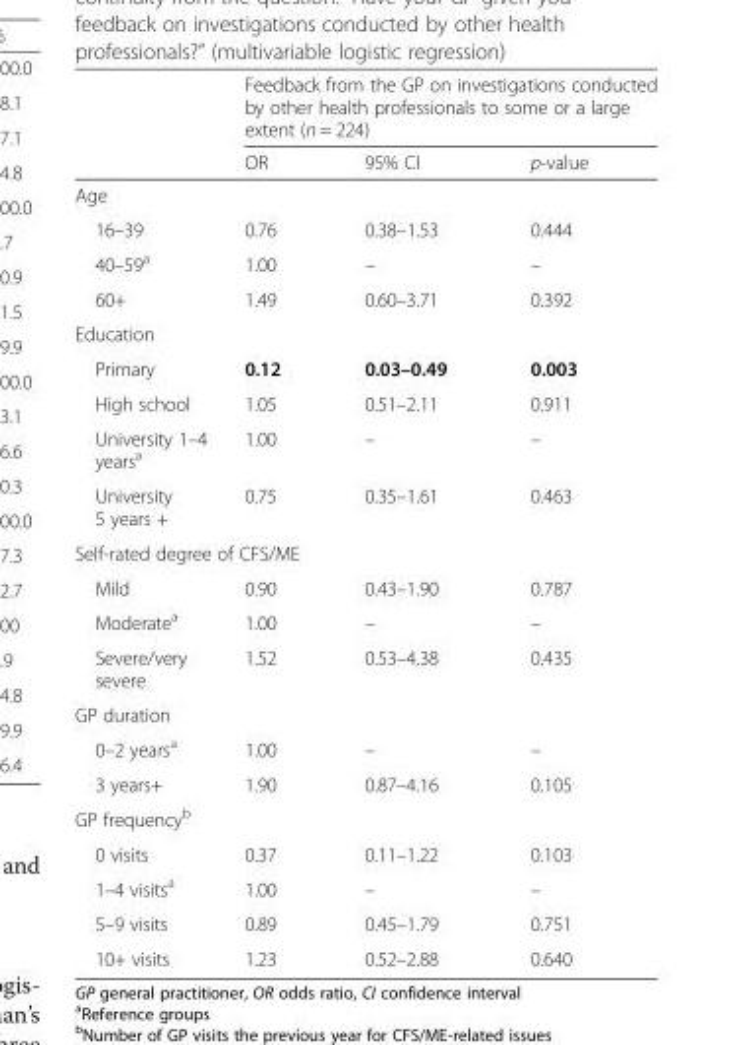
<table><thead><tr><td rowspan="2"></td><td colspan="3">Feedback from the GP on investigations conducted by other health professionals to some or a large extent (n = 224)</td></tr><tr><td>OR</td><td>95% CI</td><td>p-value</td></tr></thead><tbody><tr><td colspan="4">Age</td></tr><tr><td>16–39</td><td>0.76</td><td>0.38–1.53</td><td>0.444</td></tr><tr><td>40–59<sup>a</sup></td><td>1.00</td><td>–</td><td>–</td></tr><tr><td>60+</td><td>1.49</td><td>0.60–3.71</td><td>0.392</td></tr><tr><td colspan="4">Education</td></tr><tr><td>Primary</td><td>0.12</td><td>0.03–0.49</td><td>0.003</td></tr><tr><td>High school</td><td>1.05</td><td>0.51–2.11</td><td>0.911</td></tr><tr><td>University 1–4 years<sup>a</sup></td><td>1.00</td><td>–</td><td>–</td></tr><tr><td>University 5 years +</td><td>0.75</td><td>0.35–1.61</td><td>0.463</td></tr><tr><td colspan="4">Self-rated degree of CFS/ME</td></tr><tr><td>Mild</td><td>0.90</td><td>0.43–1.90</td><td>0.787</td></tr><tr><td>Moderate<sup>a</sup></td><td>1.00</td><td>–</td><td>–</td></tr><tr><td>Severe/very severe</td><td>1.52</td><td>0.53–4.38</td><td>0.435</td></tr><tr><td colspan="4">GP duration</td></tr><tr><td>0–2 years<sup>a</sup></td><td>1.00</td><td>–</td><td>–</td></tr><tr><td>3 years+</td><td>1.90</td><td>0.87–4.16</td><td>0.105</td></tr><tr><td colspan="4">GP frequency<sup>b</sup></td></tr><tr><td>0 visits</td><td>0.37</td><td>0.11–1.22</td><td>0.103</td></tr><tr><td>1–4 visits<sup>a</sup></td><td>1.00</td><td>–</td><td>–</td></tr><tr><td>5–9 visits</td><td>0.89</td><td>0.45–1.79</td><td>0.751</td></tr><tr><td>10+ visits</td><td>1.23</td><td>0.52–2.88</td><td>0.640</td></tr></tbody></table>